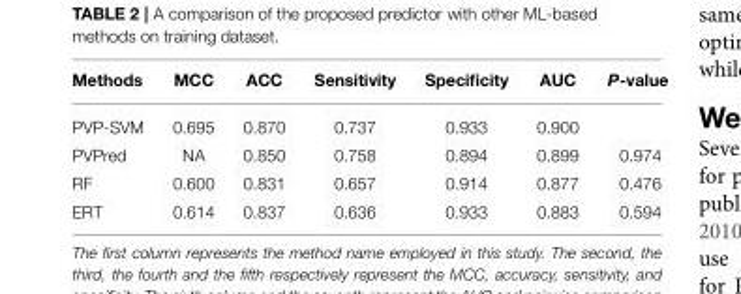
<table><thead><tr><td>Methods</td><td>MCC</td><td>ACC</td><td>Sensitivity</td><td>Specificity</td><td>AUC</td><td>P-value</td></tr></thead><tbody><tr><td>PVP-SVM</td><td>0.695</td><td>0.870</td><td>0.737</td><td>0.933</td><td>0.900</td><td></td></tr><tr><td>PVPred</td><td>NA</td><td>0.850</td><td>0.758</td><td>0.894</td><td>0.899</td><td>0.974</td></tr><tr><td>RF</td><td>0.600</td><td>0.831</td><td>0.657</td><td>0.914</td><td>0.877</td><td>0.476</td></tr><tr><td>ERT</td><td>0.614</td><td>0.837</td><td>0.636</td><td>0.933</td><td>0.883</td><td>0.594</td></tr></tbody></table>